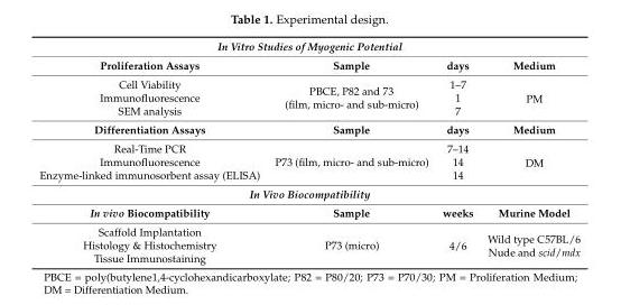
<table><tbody><tr><td colspan="4">In Vitro Studies of Myogenic Potential</td></tr><tr><td>Proliferation Assays</td><td>Sample</td><td>days</td><td>Medium</td></tr><tr><td>Cell Viability</td><td rowspan="3">PBCE, P82 and 73 (film, micro- and sub-micro)</td><td>1–7</td><td rowspan="3">PM</td></tr><tr><td>Immunofluorescence</td><td>1</td></tr><tr><td>SEM analysis</td><td>7</td></tr><tr><td>Differentiation Assays</td><td>Sample</td><td>days</td><td>Medium</td></tr><tr><td>Real-Time PCR</td><td rowspan="3">P73 (film, micro- and sub-micro)</td><td>7–14</td><td rowspan="3">DM</td></tr><tr><td>Immunofluorescence</td><td>14</td></tr><tr><td>Enzyme-linked immunosorbent assay (ELISA)</td><td>14</td></tr><tr><td colspan="4">In Vivo Biocompatibility</td></tr><tr><td>In vivo Biocompatibility</td><td>Sample</td><td>weeks</td><td>Murine Model</td></tr><tr><td>Scaffold Implantation</td><td rowspan="3">P73 (micro)</td><td rowspan="3">4/6</td><td rowspan="3">Wild type C57BL/6 Nude and scid/mdx</td></tr><tr><td>Histology &amp; Histochemistry</td></tr><tr><td>Tissue Immunostaining</td></tr></tbody></table>